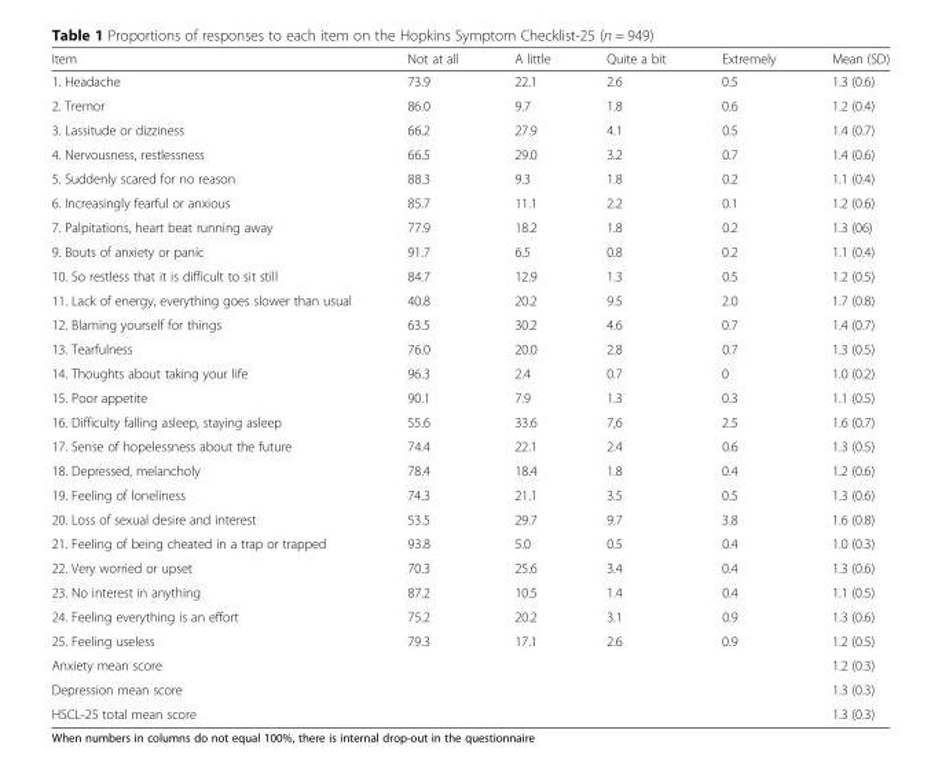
<table><thead><tr><td>Item</td><td>Not at all</td><td>A little</td><td>Quite a bit</td><td>Extremely</td><td>Mean (SD)</td></tr></thead><tbody><tr><td>1. Headache</td><td>73.9</td><td>22.1</td><td>2.6</td><td>0.5</td><td>1.3 (0.6)</td></tr><tr><td>2. Tremor</td><td>86.0</td><td>9.7</td><td>1.8</td><td>0.6</td><td>1.2 (0.4)</td></tr><tr><td>3. Lassitude or dizziness</td><td>66.2</td><td>27.9</td><td>4.1</td><td>0.5</td><td>1.4 (0.7)</td></tr><tr><td>4. Nervousness, restlessness</td><td>66.5</td><td>29.0</td><td>3.2</td><td>0.7</td><td>1.4 (0.6)</td></tr><tr><td>5. Suddenly scared for no reason</td><td>88.3</td><td>9.3</td><td>1.8</td><td>0.2</td><td>1.1 (0.4)</td></tr><tr><td>6. Increasingly fearful or anxious</td><td>85.7</td><td>11.1</td><td>2.2</td><td>0.1</td><td>1.2 (0.6)</td></tr><tr><td>7. Palpitations, heart beat running away</td><td>77.9</td><td>18.2</td><td>1.8</td><td>0.2</td><td>1.3 (06)</td></tr><tr><td>9. Bouts of anxiety or panic</td><td>91.7</td><td>6.5</td><td>0.8</td><td>0.2</td><td>1.1 (0.4)</td></tr><tr><td>10. So restless that it is difficult to sit still</td><td>84.7</td><td>12.9</td><td>1.3</td><td>0.5</td><td>1.2 (0.5)</td></tr><tr><td>11. Lack of energy, everything goes slower than usual</td><td>40.8</td><td>20.2</td><td>9.5</td><td>2.0</td><td>1.7 (0.8)</td></tr><tr><td>12. Blaming yourself for things</td><td>63.5</td><td>30.2</td><td>4.6</td><td>0.7</td><td>1.4 (0.7)</td></tr><tr><td>13. Tearfulness</td><td>76.0</td><td>20.0</td><td>2.8</td><td>0.7</td><td>1.3 (0.5)</td></tr><tr><td>14. Thoughts about taking your life</td><td>96.3</td><td>2.4</td><td>0.7</td><td>0</td><td>1.0 (0.2)</td></tr><tr><td>15. Poor appetite</td><td>90.1</td><td>7.9</td><td>1.3</td><td>0.3</td><td>1.1 (0.5)</td></tr><tr><td>16. Difficulty falling asleep, staying asleep</td><td>55.6</td><td>33.6</td><td>7,6</td><td>2.5</td><td>1.6 (0.7)</td></tr><tr><td>17. Sense of hopelessness about the future</td><td>74.4</td><td>22.1</td><td>2.4</td><td>0.6</td><td>1.3 (0.5)</td></tr><tr><td>18. Depressed, melancholy</td><td>78.4</td><td>18.4</td><td>1.8</td><td>0.4</td><td>1.2 (0.6)</td></tr><tr><td>19. Feeling of loneliness</td><td>74.3</td><td>21.1</td><td>3.5</td><td>0.5</td><td>1.3 (0.6)</td></tr><tr><td>20. Loss of sexual desire and interest</td><td>53.5</td><td>29.7</td><td>9.7</td><td>3.8</td><td>1.6 (0.8)</td></tr><tr><td>21. Feeling of being cheated in a trap or trapped</td><td>93.8</td><td>5.0</td><td>0.5</td><td>0.4</td><td>1.0 (0.3)</td></tr><tr><td>22. Very worried or upset</td><td>70.3</td><td>25.6</td><td>3.4</td><td>0.4</td><td>1.3 (0.6)</td></tr><tr><td>23. No interest in anything</td><td>87.2</td><td>10.5</td><td>1.4</td><td>0.4</td><td>1.1 (0.5)</td></tr><tr><td>24. Feeling everything is an effort</td><td>75.2</td><td>20.2</td><td>3.1</td><td>0.9</td><td>1.3 (0.6)</td></tr><tr><td>25. Feeling useless</td><td>79.3</td><td>17.1</td><td>2.6</td><td>0.9</td><td>1.2 (0.5)</td></tr><tr><td>Anxiety mean score</td><td></td><td></td><td></td><td></td><td>1.2 (0.3)</td></tr><tr><td>Depression mean score</td><td></td><td></td><td></td><td></td><td>1.3 (0.3)</td></tr><tr><td>HSCL-25 total mean score</td><td></td><td></td><td></td><td></td><td>1.3 (0.3)</td></tr></tbody></table>